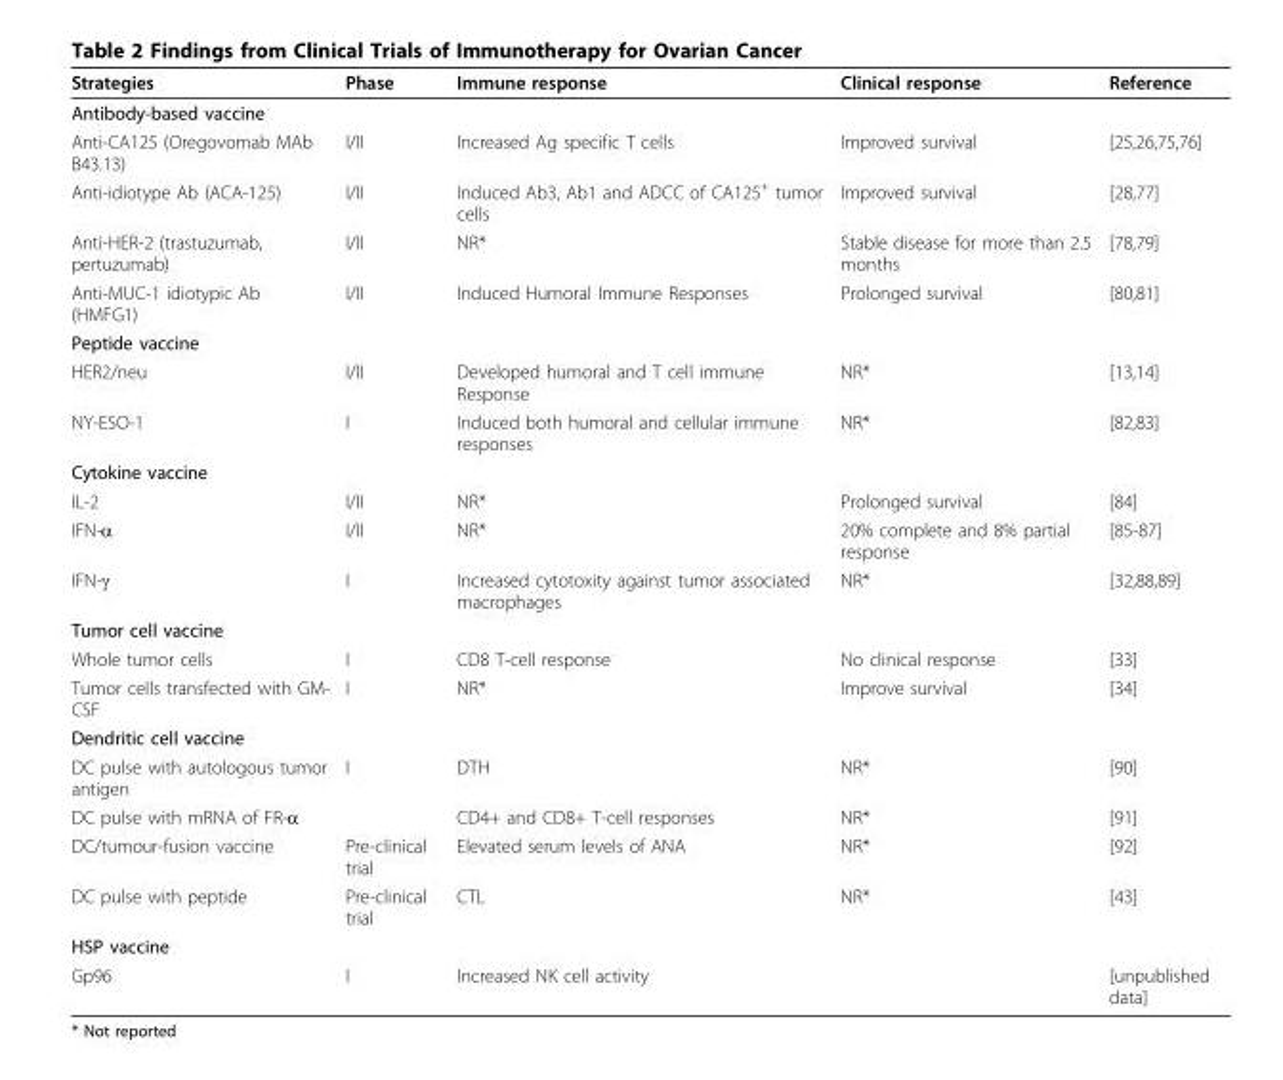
<table><thead><tr><td>Strategies</td><td>Phase</td><td>Immune response</td><td>Clinical response</td><td>Reference</td></tr></thead><tbody><tr><td colspan="5">Antibody-based vaccine</td></tr><tr><td>Anti-CA125 (Oregovomab MAb B43.13)</td><td>I/II</td><td>Increased Ag specific T cells</td><td>Improved survival</td><td>[25,26,75,76]</td></tr><tr><td>Anti-idiotype Ab (ACA-125)</td><td>I/II</td><td>Induced Ab3, Ab1 and ADCC of CA125<sup>+</sup> tumor cells</td><td>Improved survival</td><td>[28,77]</td></tr><tr><td>Anti-HER-2 (trastuzumab, pertuzumab)</td><td>I/II</td><td>NR*</td><td>Stable disease for more than 2.5 months</td><td>[78,79]</td></tr><tr><td>Anti-MUC-1 idiotypic Ab (HMFG1)</td><td>I/II</td><td>Induced Humoral Immune Responses</td><td>Prolonged survival</td><td>[80,81]</td></tr><tr><td colspan="5">Peptide vaccine</td></tr><tr><td>HER2/neu</td><td>I/II</td><td>Developed humoral and T cell immune Response</td><td>NR*</td><td>[13,14]</td></tr><tr><td>NY-ESO-1</td><td>I</td><td>Induced both humoral and cellular immune responses</td><td>NR*</td><td>[82,83]</td></tr><tr><td colspan="5">Cytokine vaccine</td></tr><tr><td>IL-2</td><td>I/II</td><td>NR*</td><td>Prolonged survival</td><td>[84]</td></tr><tr><td>IFN-α</td><td>I/II</td><td>NR*</td><td>20% complete and 8% partial response</td><td>[85-87]</td></tr><tr><td>IFN-γ</td><td>I</td><td>Increased cytotoxity against tumor associated macrophages</td><td>NR*</td><td>[32,88,89]</td></tr><tr><td colspan="5">Tumor cell vaccine</td></tr><tr><td>Whole tumor cells</td><td>I</td><td>CD8 T-cell response</td><td>No clinical response</td><td>[33]</td></tr><tr><td>Tumor cells transfected with GM- CSF</td><td>I</td><td>NR*</td><td>Improve survival</td><td>[34]</td></tr><tr><td colspan="5">Dendritic cell vaccine</td></tr><tr><td>DC pulse with autologous tumor antigen</td><td>I</td><td>DTH</td><td>NR*</td><td>[90]</td></tr><tr><td>DC pulse with mRNA of FR-α</td><td></td><td>CD4+ and CD8+ T-cell responses</td><td>NR*</td><td>[91]</td></tr><tr><td>DC/tumour-fusion vaccine</td><td>Pre-clinical trial</td><td>Elevated serum levels of ANA</td><td>NR*</td><td>[92]</td></tr><tr><td>DC pulse with peptide</td><td>Pre-clinical trial</td><td>CTL</td><td>NR*</td><td>[43]</td></tr><tr><td colspan="5">HSP vaccine</td></tr><tr><td>Gp96</td><td>I</td><td>Increased NK cell activity</td><td></td><td>[unpublished data]</td></tr></tbody></table>